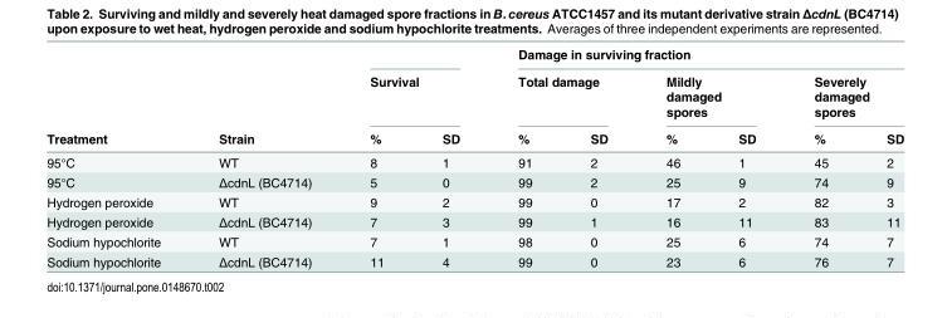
<table><thead><tr><td rowspan="3">Treatment</td><td rowspan="3">Strain</td><td></td><td></td><td colspan="6">Damage in surviving fraction</td></tr><tr><td colspan="2">Survival</td><td colspan="2">Total damage</td><td colspan="2">Mildly damaged spores</td><td colspan="2">Severely damaged spores</td></tr><tr><td>%</td><td>SD</td><td>%</td><td>SD</td><td>%</td><td>SD</td><td>%</td><td>SD</td></tr></thead><tbody><tr><td>95°C</td><td>WT</td><td>8</td><td>1</td><td>91</td><td>2</td><td>46</td><td>1</td><td>45</td><td>2</td></tr><tr><td>95°C</td><td>ΔcdnL (BC4714)</td><td>5</td><td>0</td><td>99</td><td>2</td><td>25</td><td>9</td><td>74</td><td>9</td></tr><tr><td>Hydrogen peroxide</td><td>WT</td><td>9</td><td>2</td><td>99</td><td>0</td><td>17</td><td>2</td><td>82</td><td>3</td></tr><tr><td>Hydrogen peroxide</td><td>ΔcdnL (BC4714)</td><td>7</td><td>3</td><td>99</td><td>1</td><td>16</td><td>11</td><td>83</td><td>11</td></tr><tr><td>Sodium hypochlorite</td><td>WT</td><td>7</td><td>1</td><td>98</td><td>0</td><td>25</td><td>6</td><td>74</td><td>7</td></tr><tr><td>Sodium hypochlorite</td><td>ΔcdnL (BC4714)</td><td>11</td><td>4</td><td>99</td><td>0</td><td>23</td><td>6</td><td>76</td><td>7</td></tr></tbody></table>